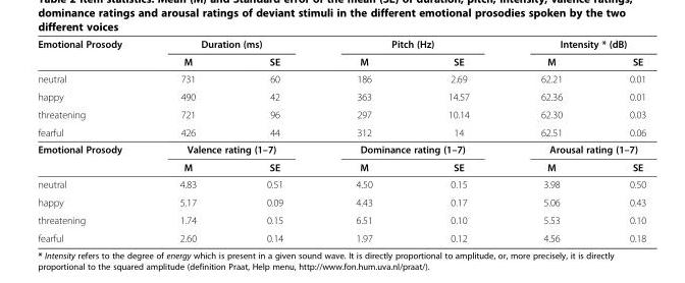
<table><thead><tr><td rowspan="2">Emotional Prosody</td><td colspan="2">Duration (ms)</td><td colspan="2">Pitch (Hz)</td><td colspan="2">Intensity * (dB)</td></tr><tr><td>M</td><td>SE</td><td>M</td><td>SE</td><td>M</td><td>SE</td></tr></thead><tbody><tr><td>neutral</td><td>731</td><td>60</td><td>186</td><td>2.69</td><td>62.21</td><td>0.01</td></tr><tr><td>happy</td><td>490</td><td>42</td><td>363</td><td>14.57</td><td>62.36</td><td>0.01</td></tr><tr><td>threatening</td><td>721</td><td>96</td><td>297</td><td>10.14</td><td>62.30</td><td>0.03</td></tr><tr><td>fearful</td><td>426</td><td>44</td><td>312</td><td>14</td><td>62.51</td><td>0.06</td></tr><tr><td rowspan="2">Emotional Prosody</td><td colspan="2">Valence rating (1–7)</td><td colspan="2">Dominance rating (1–7)</td><td colspan="2">Arousal rating (1–7)</td></tr><tr><td>M</td><td>SE</td><td>M</td><td>SE</td><td>M</td><td>SE</td></tr><tr><td>neutral</td><td>4.83</td><td>0.51</td><td>4.50</td><td>0.15</td><td>3.98</td><td>0.50</td></tr><tr><td>happy</td><td>5.17</td><td>0.09</td><td>4.43</td><td>0.17</td><td>5.06</td><td>0.43</td></tr><tr><td>threatening</td><td>1.74</td><td>0.15</td><td>6.51</td><td>0.10</td><td>5.53</td><td>0.10</td></tr><tr><td>fearful</td><td>2.60</td><td>0.14</td><td>1.97</td><td>0.12</td><td>4.56</td><td>0.18</td></tr></tbody></table>